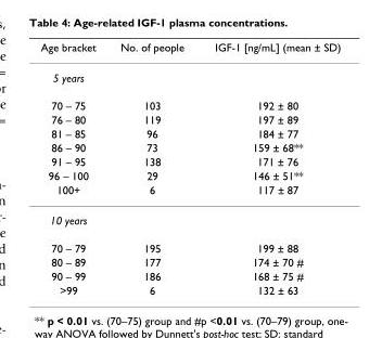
<table><thead><tr><td>Age bracket</td><td>No. of people</td><td>IGF-1 [ng/mL] (mean ± SD)</td></tr></thead><tbody><tr><td colspan="3">5 years</td></tr><tr><td>70 – 75</td><td>103</td><td>192 ± 80</td></tr><tr><td>76 – 80</td><td>119</td><td>197 ± 89</td></tr><tr><td>81 – 85</td><td>96</td><td>184 ± 77</td></tr><tr><td>86 – 90</td><td>73</td><td>159 ± 68**</td></tr><tr><td>91 – 95</td><td>138</td><td>171 ± 76</td></tr><tr><td>96 – 100</td><td>29</td><td>146 ± 51**</td></tr><tr><td>100+</td><td>6</td><td>117 ± 87</td></tr><tr><td colspan="3">10 years</td></tr><tr><td>70 – 79</td><td>195</td><td>199 ± 88</td></tr><tr><td>80 – 89</td><td>177</td><td>174 ± 70 #</td></tr><tr><td>90 – 99</td><td>186</td><td>168 ± 75 #</td></tr><tr><td>&gt;99</td><td>6</td><td>132 ± 63</td></tr></tbody></table>